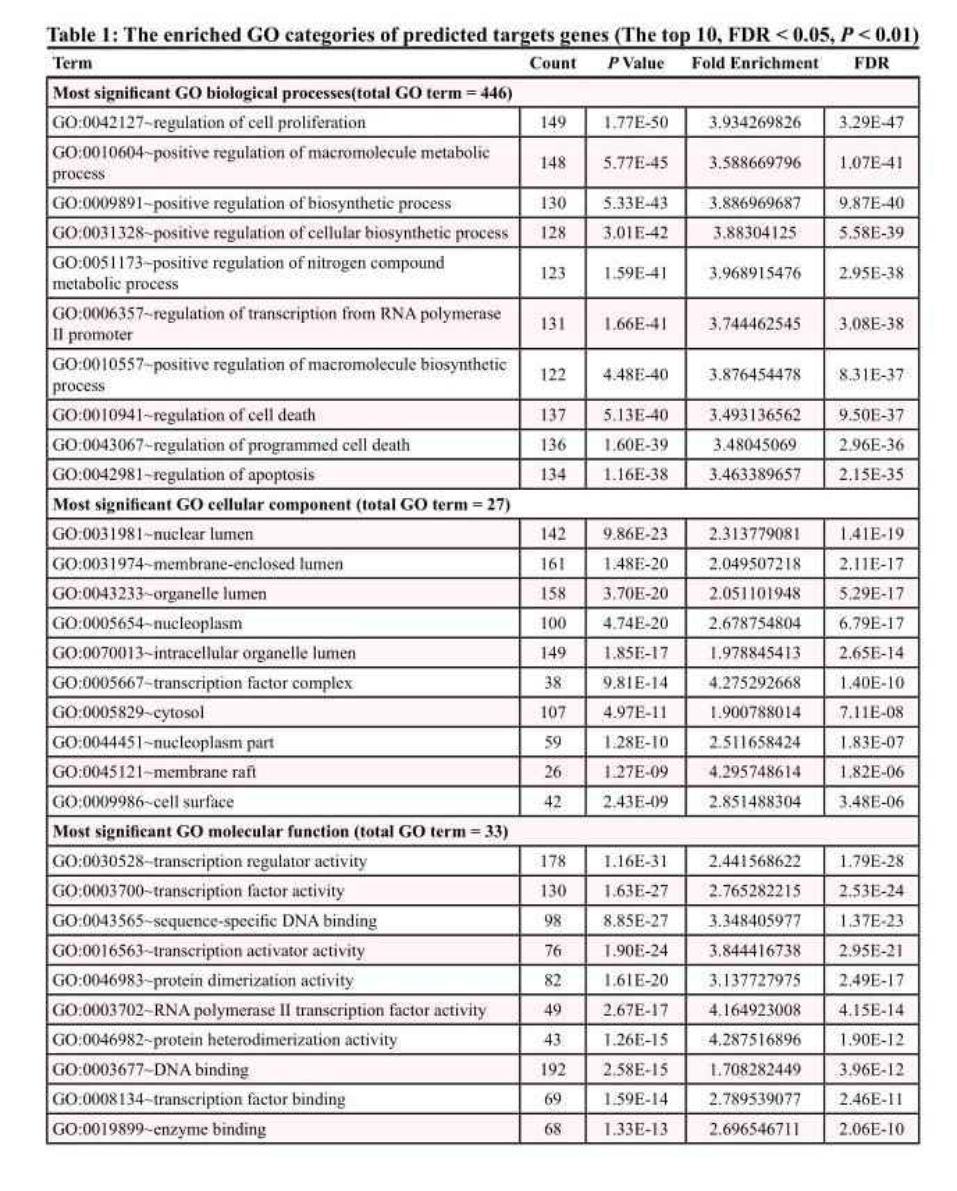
<table><thead><tr><td>Term</td><td>Count</td><td>P Value</td><td>Fold Enrichment</td><td>FDR</td></tr></thead><tbody><tr><td colspan="5">Most significant GO biological processes(total GO term = 446)</td></tr><tr><td>GO:0042127~regulation of cell proliferation</td><td>149</td><td>1.77E-50</td><td>3.934269826</td><td>3.29E-47</td></tr><tr><td>GO:0010604~positive regulation of macromolecule metabolic process</td><td>148</td><td>5.77E-45</td><td>3.588669796</td><td>1.07E-41</td></tr><tr><td>GO:0009891~positive regulation of biosynthetic process</td><td>130</td><td>5.33E-43</td><td>3.886969687</td><td>9.87E-40</td></tr><tr><td>GO:0031328~positive regulation of cellular biosynthetic process</td><td>128</td><td>3.01E-42</td><td>3.88304125</td><td>5.58E-39</td></tr><tr><td>GO:0051173~positive regulation of nitrogen compound metabolic process</td><td>123</td><td>1.59E-41</td><td>3.968915476</td><td>2.95E-38</td></tr><tr><td>GO:0006357~regulation of transcription from RNA polymerase II promoter</td><td>131</td><td>1.66E-41</td><td>3.744462545</td><td>3.08E-38</td></tr><tr><td>GO:0010557~positive regulation of macromolecule biosynthetic process</td><td>122</td><td>4.48E-40</td><td>3.876454478</td><td>8.31E-37</td></tr><tr><td>GO:0010941~regulation of cell death</td><td>137</td><td>5.13E-40</td><td>3.493136562</td><td>9.50E-37</td></tr><tr><td>GO:0043067~regulation of programmed cell death</td><td>136</td><td>1.60E-39</td><td>3.48045069</td><td>2.96E-36</td></tr><tr><td>GO:0042981~regulation of apoptosis</td><td>134</td><td>1.16E-38</td><td>3.463389657</td><td>2.15E-35</td></tr><tr><td colspan="5">Most significant GO cellular component (total GO term = 27)</td></tr><tr><td>GO:0031981~nuclear lumen</td><td>142</td><td>9.86E-23</td><td>2.313779081</td><td>1.41E-19</td></tr><tr><td>GO:0031974~membrane-enclosed lumen</td><td>161</td><td>1.48E-20</td><td>2.049507218</td><td>2.11E-17</td></tr><tr><td>GO:0043233~organelle lumen</td><td>158</td><td>3.70E-20</td><td>2.051101948</td><td>5.29E-17</td></tr><tr><td>GO:0005654~nucleoplasm</td><td>100</td><td>4.74E-20</td><td>2.678754804</td><td>6.79E-17</td></tr><tr><td>GO:0070013~intracellular organelle lumen</td><td>149</td><td>1.85E-17</td><td>1.978845413</td><td>2.65E-14</td></tr><tr><td>GO:0005667~transcription factor complex</td><td>38</td><td>9.81E-14</td><td>4.275292668</td><td>1.40E-10</td></tr><tr><td>GO:0005829~cytosol</td><td>107</td><td>4.97E-11</td><td>1.900788014</td><td>7.11E-08</td></tr><tr><td>GO:0044451~nucleoplasm part</td><td>59</td><td>1.28E-10</td><td>2.511658424</td><td>1.83E-07</td></tr><tr><td>GO:0045121~membrane raft</td><td>26</td><td>1.27E-09</td><td>4.295748614</td><td>1.82E-06</td></tr><tr><td>GO:0009986~cell surface</td><td>42</td><td>2.43E-09</td><td>2.851488304</td><td>3.48E-06</td></tr><tr><td colspan="5">Most significant GO molecular function (total GO term = 33)</td></tr><tr><td>GO:0030528~transcription regulator activity</td><td>178</td><td>1.16E-31</td><td>2.441568622</td><td>1.79E-28</td></tr><tr><td>GO:0003700~transcription factor activity</td><td>130</td><td>1.63E-27</td><td>2.765282215</td><td>2.53E-24</td></tr><tr><td>GO:0043565~sequence-specific DNA binding</td><td>98</td><td>8.85E-27</td><td>3.348405977</td><td>1.37E-23</td></tr><tr><td>GO:0016563~transcription activator activity</td><td>76</td><td>1.90E-24</td><td>3.844416738</td><td>2.95E-21</td></tr><tr><td>GO:0046983~protein dimerization activity</td><td>82</td><td>1.61E-20</td><td>3.137727975</td><td>2.49E-17</td></tr><tr><td>GO:0003702~RNA polymerase II transcription factor activity</td><td>49</td><td>2.67E-17</td><td>4.164923008</td><td>4.15E-14</td></tr><tr><td>GO:0046982~protein heterodimerization activity</td><td>43</td><td>1.26E-15</td><td>4.287516896</td><td>1.90E-12</td></tr><tr><td>GO:0003677~DNA binding</td><td>192</td><td>2.58E-15</td><td>1.708282449</td><td>3.96E-12</td></tr><tr><td>GO:0008134~transcription factor binding</td><td>69</td><td>1.59E-14</td><td>2.789539077</td><td>2.46E-11</td></tr><tr><td>GO:0019899~enzyme binding</td><td>68</td><td>1.33E-13</td><td>2.696546711</td><td>2.06E-10</td></tr></tbody></table>